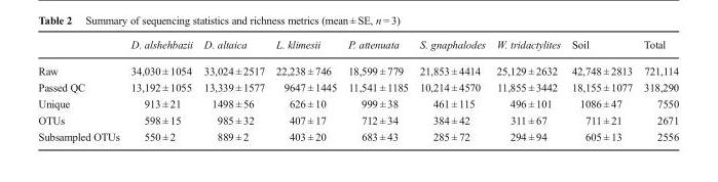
<table><thead><tr><td></td><td>D. alshehbazii</td><td>D. altaica</td><td>L. klimesii</td><td>P. attenuata</td><td>S. gnaphalodes</td><td>W. tridactylites</td><td>Soil</td><td>Total</td></tr></thead><tbody><tr><td>Raw</td><td>34,030 ± 1054</td><td>33,024 ± 2517</td><td>22,238 ± 746</td><td>18,599 ± 779</td><td>21,853 ± 4414</td><td>25,129 ± 2632</td><td>42,748 ± 2813</td><td>721,114</td></tr><tr><td>Passed QC</td><td>13,192 ± 1055</td><td>13,339 ± 1577</td><td>9647 ± 1445</td><td>11,541 ± 1185</td><td>10,214 ± 4570</td><td>11,855 ± 3442</td><td>18,155 ± 1077</td><td>318,290</td></tr><tr><td>Unique</td><td>913 ± 21</td><td>1498 ± 56</td><td>626 ± 10</td><td>999 ± 38</td><td>461 ± 115</td><td>496 ± 101</td><td>1086 ± 47</td><td>7550</td></tr><tr><td>OTUs</td><td>598 ± 15</td><td>985 ± 32</td><td>407 ± 17</td><td>712 ± 34</td><td>384 ± 42</td><td>311 ± 67</td><td>711 ± 21</td><td>2671</td></tr><tr><td>Subsampled OTUs</td><td>550 ± 2</td><td>889 ± 2</td><td>403 ± 20</td><td>683 ± 43</td><td>285 ± 72</td><td>294 ± 94</td><td>605 ± 13</td><td>2556</td></tr></tbody></table>